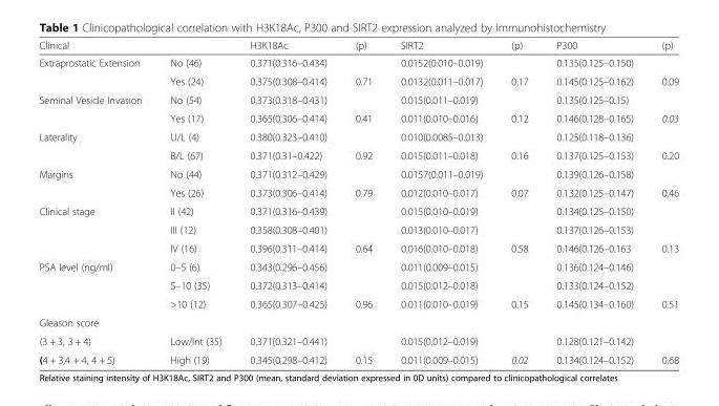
<table><thead><tr><td>Clinical</td><td></td><td>H3K18Ac</td><td>(p)</td><td>SIRT2</td><td>(p)</td><td>P300</td><td>(p)</td></tr></thead><tbody><tr><td rowspan="2">Extraprostatic Extension</td><td>No (46)</td><td>0.371(0.316–0.434)</td><td></td><td>0.0152(0.010–0.019)</td><td></td><td>0.135(0.125–0.150)</td><td></td></tr><tr><td>Yes (24)</td><td>0.375(0.308–0.414)</td><td>0.71</td><td>0.0132(0.011–0.017)</td><td>0.17</td><td>0.145(0.125–0.162)</td><td>0.09</td></tr><tr><td rowspan="2">Seminal Vesicle Invasion</td><td>No (54)</td><td>0.373(0.318–0.431)</td><td></td><td>0.015(0.011–0.019)</td><td></td><td>0.135(0.125–0.15)</td><td></td></tr><tr><td>Yes (17)</td><td>0.365(0.306–0.414)</td><td>0.41</td><td>0.011(0.010–0.016)</td><td>0.12</td><td>0.146(0.128–0.165)</td><td>0.03</td></tr><tr><td rowspan="2">Laterality</td><td>U/L (4)</td><td>0.380(0.323–0.410)</td><td></td><td>0.010(0.0085–0.013)</td><td></td><td>0.125(0.118–0.136)</td><td></td></tr><tr><td>B/L (67)</td><td>0.371(0.31–0.422)</td><td>0.92</td><td>0.015(0.011–0.018)</td><td>0.16</td><td>0.137(0.125–0.153)</td><td>0.20</td></tr><tr><td rowspan="2">Margins</td><td>No (44)</td><td>0.371(0.312–0.429)</td><td></td><td>0.0157(0.011–0.019)</td><td></td><td>0.139(0.126–0.158)</td><td></td></tr><tr><td>Yes (26)</td><td>0.373(0.306–0.414)</td><td>0.79</td><td>0.012(0.010–0.017)</td><td>0.07</td><td>0.132(0.125–0.147)</td><td>0.46</td></tr><tr><td rowspan="3">Clinical stage</td><td>II (42)</td><td>0.371(0.316–0.439)</td><td></td><td>0.015(0.010–0.019)</td><td></td><td>0.134(0.125–0.150)</td><td></td></tr><tr><td>III (12)</td><td>0.358(0.308–0.401)</td><td></td><td>0.013(0.010–0.017)</td><td></td><td>0.137(0.126–0.153)</td><td></td></tr><tr><td>IV (16)</td><td>0.396(0.311–0.414)</td><td>0.64</td><td>0.016(0.010–0.018)</td><td>0.58</td><td>0.146(0.126–0.163</td><td>0.13</td></tr><tr><td rowspan="3">PSA level (ng/ml)</td><td>0–5 (6)</td><td>0.343(0.296–0.456)</td><td></td><td>0.011(0.009–0.015)</td><td></td><td>0.136(0.124–0.146)</td><td></td></tr><tr><td>5–10 (35)</td><td>0.372(0.313–0.414)</td><td></td><td>0.015(0.012–0.018)</td><td></td><td>0.133(0.124–0.152)</td><td></td></tr><tr><td>&gt;10 (12)</td><td>0.365(0.307–0.425)</td><td>0.96</td><td>0.011(0.010–0.019)</td><td>0.15</td><td>0.145(0.134–0.160)</td><td>0.51</td></tr><tr><td colspan="8">Gleason score</td></tr><tr><td>(3 + 3, 3 + 4)</td><td>Low/Int (35)</td><td>0.371(0.321–0.441)</td><td></td><td>0.015(0.012–0.019)</td><td></td><td>0.128(0.121–0.142)</td><td></td></tr><tr><td>(4 + 3,4 + 4, 4 + 5)</td><td>High (19)</td><td>0.345(0.298–0.412)</td><td>0.15</td><td>0.011(0.009–0.015)</td><td>0.02</td><td>0.134(0.124–0.152)</td><td>0.68</td></tr></tbody></table>